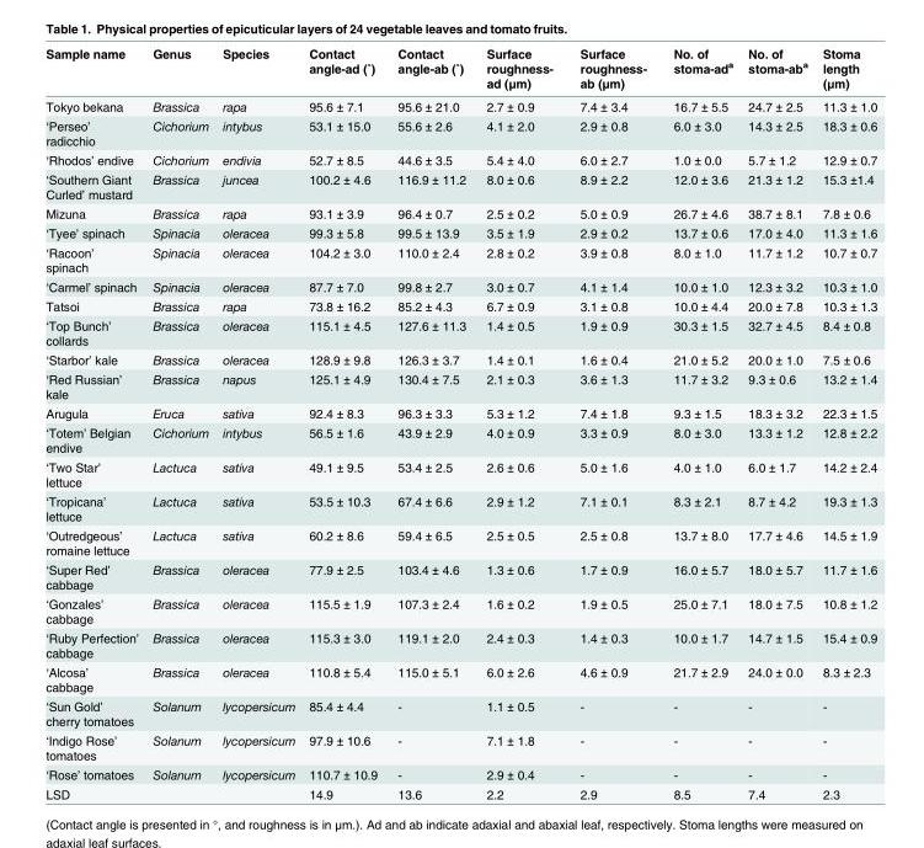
<table><thead><tr><td>Sample name</td><td>Genus</td><td>Species</td><td>Contact angle-ad (˚)</td><td>Contact angle-ab (˚)</td><td>Surface roughness- ad (μm)</td><td>Surface roughness- ab (μm)</td><td>No. of stoma-ad<sup>a</sup></td><td>No. of stoma-ab<sup>a</sup></td><td>Stoma length (μm)</td></tr></thead><tbody><tr><td>Tokyo bekana</td><td>Brassica</td><td>rapa</td><td>95.6 ± 7.1</td><td>95.6 ± 21.0</td><td>2.7 ± 0.9</td><td>7.4 ± 3.4</td><td>16.7 ± 5.5</td><td>24.7 ± 2.5</td><td>11.3 ± 1.0</td></tr><tr><td>‘Perseo’ radicchio</td><td>Cichorium</td><td>intybus</td><td>53.1 ± 15.0</td><td>55.6 ± 2.6</td><td>4.1 ± 2.0</td><td>2.9 ± 0.8</td><td>6.0 ± 3.0</td><td>14.3 ± 2.5</td><td>18.3 ± 0.6</td></tr><tr><td>‘Rhodos’ endive</td><td>Cichorium</td><td>endivia</td><td>52.7 ± 8.5</td><td>44.6 ± 3.5</td><td>5.4 ± 4.0</td><td>6.0 ± 2.7</td><td>1.0 ± 0.0</td><td>5.7 ± 1.2</td><td>12.9 ± 0.7</td></tr><tr><td>‘Southern Giant Curled’ mustard</td><td>Brassica</td><td>juncea</td><td>100.2 ± 4.6</td><td>116.9 ± 11.2</td><td>8.0 ± 0.6</td><td>8.9 ± 2.2</td><td>12.0 ± 3.6</td><td>21.3 ± 1.2</td><td>15.3 ±1.4</td></tr><tr><td>Mizuna</td><td>Brassica</td><td>rapa</td><td>93.1 ± 3.9</td><td>96.4 ± 0.7</td><td>2.5 ± 0.2</td><td>5.0 ± 0.9</td><td>26.7 ± 4.6</td><td>38.7 ± 8.1</td><td>7.8 ± 0.6</td></tr><tr><td>‘Tyee’ spinach</td><td>Spinacia</td><td>oleracea</td><td>99.3 ± 5.8</td><td>99.5 ± 13.9</td><td>3.5 ± 1.9</td><td>2.9 ± 0.2</td><td>13.7 ± 0.6</td><td>17.0 ± 4.0</td><td>11.3 ± 1.6</td></tr><tr><td>‘Racoon’ spinach</td><td>Spinacia</td><td>oleracea</td><td>104.2 ± 3.0</td><td>110.0 ± 2.4</td><td>2.8 ± 0.2</td><td>3.9 ± 0.8</td><td>8.0 ± 1.0</td><td>11.7 ± 1.2</td><td>10.7 ± 0.7</td></tr><tr><td>‘Carmel’ spinach</td><td>Spinacia</td><td>oleracea</td><td>87.7 ± 7.0</td><td>99.8 ± 2.7</td><td>3.0 ± 0.7</td><td>4.1 ± 1.4</td><td>10.0 ± 1.0</td><td>12.3 ± 3.2</td><td>10.3 ± 1.0</td></tr><tr><td>Tatsoi</td><td>Brassica</td><td>rapa</td><td>73.8 ± 16.2</td><td>85.2 ± 4.3</td><td>6.7 ± 0.9</td><td>3.1 ± 0.8</td><td>10.0 ± 4.4</td><td>20.0 ± 7.8</td><td>10.3 ± 1.3</td></tr><tr><td>‘Top Bunch’ collards</td><td>Brassica</td><td>oleracea</td><td>115.1 ± 4.5</td><td>127.6 ± 11.3</td><td>1.4 ± 0.5</td><td>1.9 ± 0.9</td><td>30.3 ± 1.5</td><td>32.7 ± 4.5</td><td>8.4 ± 0.8</td></tr><tr><td>‘Starbor’ kale</td><td>Brassica</td><td>oleracea</td><td>128.9 ± 9.8</td><td>126.3 ± 3.7</td><td>1.4 ± 0.1</td><td>1.6 ± 0.4</td><td>21.0 ± 5.2</td><td>20.0 ± 1.0</td><td>7.5 ± 0.6</td></tr><tr><td>‘Red Russian’ kale</td><td>Brassica</td><td>napus</td><td>125.1 ± 4.9</td><td>130.4 ± 7.5</td><td>2.1 ± 0.3</td><td>3.6 ± 1.3</td><td>11.7 ± 3.2</td><td>9.3 ± 0.6</td><td>13.2 ± 1.4</td></tr><tr><td>Arugula</td><td>Eruca</td><td>sativa</td><td>92.4 ± 8.3</td><td>96.3 ± 3.3</td><td>5.3 ± 1.2</td><td>7.4 ± 1.8</td><td>9.3 ± 1.5</td><td>18.3 ± 3.2</td><td>22.3 ± 1.5</td></tr><tr><td>‘Totem’ Belgian endive</td><td>Cichorium</td><td>intybus</td><td>56.5 ± 1.6</td><td>43.9 ± 2.9</td><td>4.0 ± 0.9</td><td>3.3 ± 0.9</td><td>8.0 ± 3.0</td><td>13.3 ± 1.2</td><td>12.8 ± 2.2</td></tr><tr><td>‘Two Star’ lettuce</td><td>Lactuca</td><td>sativa</td><td>49.1 ± 9.5</td><td>53.4 ± 2.5</td><td>2.6 ± 0.6</td><td>5.0 ± 1.6</td><td>4.0 ± 1.0</td><td>6.0 ± 1.7</td><td>14.2 ± 2.4</td></tr><tr><td>‘Tropicana’ lettuce</td><td>Lactuca</td><td>sativa</td><td>53.5 ± 10.3</td><td>67.4 ± 6.6</td><td>2.9 ± 1.2</td><td>7.1 ± 0.1</td><td>8.3 ± 2.1</td><td>8.7 ± 4.2</td><td>19.3 ± 1.3</td></tr><tr><td>‘Outredgeous’ romaine lettuce</td><td>Lactuca</td><td>sativa</td><td>60.2 ± 8.6</td><td>59.4 ± 6.5</td><td>2.5 ± 0.5</td><td>2.5 ± 0.8</td><td>13.7 ± 8.0</td><td>17.7 ± 4.6</td><td>14.5 ± 1.9</td></tr><tr><td>‘Super Red’ cabbage</td><td>Brassica</td><td>oleracea</td><td>77.9 ± 2.5</td><td>103.4 ± 4.6</td><td>1.3 ± 0.6</td><td>1.7 ± 0.9</td><td>16.0 ± 5.7</td><td>18.0 ± 5.7</td><td>11.7 ± 1.6</td></tr><tr><td>‘Gonzales’ cabbage</td><td>Brassica</td><td>oleracea</td><td>115.5 ± 1.9</td><td>107.3 ± 2.4</td><td>1.6 ± 0.2</td><td>1.9 ± 0.5</td><td>25.0 ± 7.1</td><td>18.0 ± 7.5</td><td>10.8 ± 1.2</td></tr><tr><td>‘Ruby Perfection’ cabbage</td><td>Brassica</td><td>oleracea</td><td>115.3 ± 3.0</td><td>119.1 ± 2.0</td><td>2.4 ± 0.3</td><td>1.4 ± 0.3</td><td>10.0 ± 1.7</td><td>14.7 ± 1.5</td><td>15.4 ± 0.9</td></tr><tr><td>‘Alcosa’ cabbage</td><td>Brassica</td><td>oleracea</td><td>110.8 ± 5.4</td><td>115.0 ± 5.1</td><td>6.0 ± 2.6</td><td>4.6 ± 0.9</td><td>21.7 ± 2.9</td><td>24.0 ± 0.0</td><td>8.3 ± 2.3</td></tr><tr><td>‘Sun Gold’ cherry tomatoes</td><td>Solanum</td><td>lycopersicum</td><td>85.4 ± 4.4</td><td>-</td><td>1.1 ± 0.5</td><td>-</td><td>-</td><td>-</td><td>-</td></tr><tr><td>‘Indigo Rose’ tomatoes</td><td>Solanum</td><td>lycopersicum</td><td>97.9 ± 10.6</td><td>-</td><td>7.1 ± 1.8</td><td>-</td><td>-</td><td>-</td><td>-</td></tr><tr><td>‘Rose’ tomatoes</td><td>Solanum</td><td>lycopersicum</td><td>110.7 ± 10.9</td><td>-</td><td>2.9 ± 0.4</td><td>-</td><td>-</td><td>-</td><td>-</td></tr><tr><td>LSD</td><td></td><td></td><td>14.9</td><td>13.6</td><td>2.2</td><td>2.9</td><td>8.5</td><td>7.4</td><td>2.3</td></tr></tbody></table>